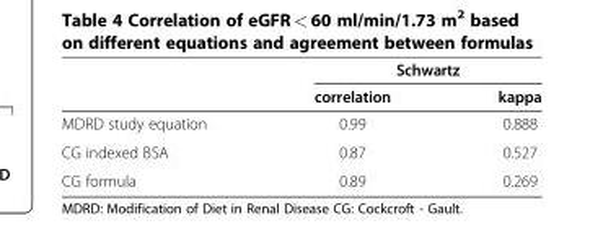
<table><thead><tr><td rowspan="2"></td><td colspan="2">Schwartz</td></tr><tr><td>correlation</td><td>kappa</td></tr></thead><tbody><tr><td>MDRD study equation</td><td>0.99</td><td>0.888</td></tr><tr><td>CG indexed BSA</td><td>0.87</td><td>0.527</td></tr><tr><td>CG formula</td><td>0.89</td><td>0.269</td></tr></tbody></table>